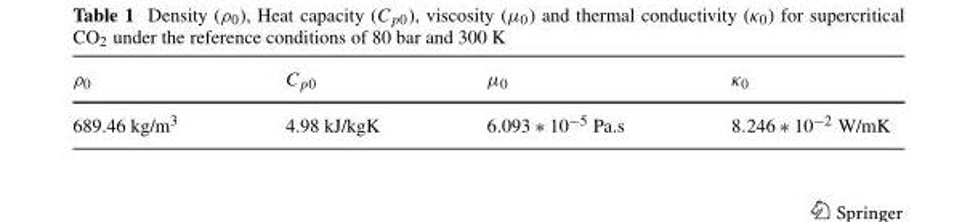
<table><thead><tr><td>ρ<sub>0</sub></td><td>C<sub>p0</sub></td><td>μ<sub>0</sub></td><td>κ<sub>0</sub></td></tr></thead><tbody><tr><td>689.46 kg/m<sup>3</sup></td><td>4.98 kJ/kgK</td><td>6.093 ∗ 10<sup>−5</sup> Pa.s</td><td>8.246 ∗ 10<sup>−2</sup> W/mK</td></tr></tbody></table>